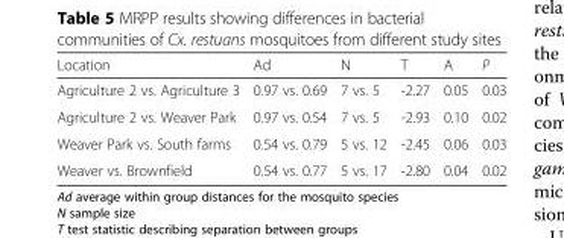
<table><thead><tr><td>Location</td><td>Ad</td><td>N</td><td>T</td><td>A</td><td>P</td></tr></thead><tbody><tr><td>Agriculture 2 vs. Agriculture 3</td><td>0.97 vs. 0.69</td><td>7 vs. 5</td><td>-2.27</td><td>0.05</td><td>0.03</td></tr><tr><td>Agriculture 2 vs. Weaver Park</td><td>0.97 vs. 0.54</td><td>7 vs. 5</td><td>-2.93</td><td>0.10</td><td>0.02</td></tr><tr><td>Weaver Park vs. South farms</td><td>0.54 vs. 0.79</td><td>5 vs. 12</td><td>-2.45</td><td>0.06</td><td>0.03</td></tr><tr><td>Weaver vs. Brownfield</td><td>0.54 vs. 0.77</td><td>5 vs. 17</td><td>-2.80</td><td>0.04</td><td>0.02</td></tr></tbody></table>